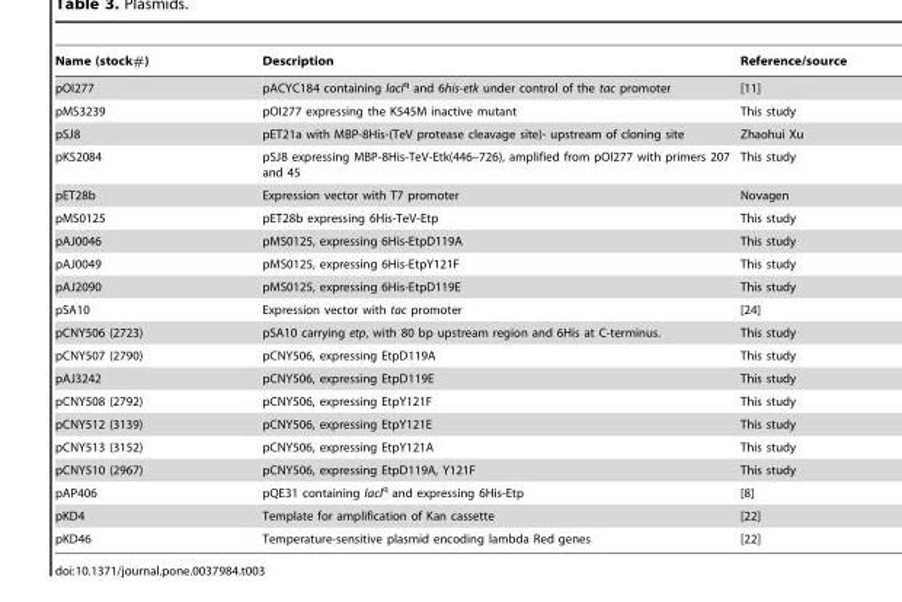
<table><thead><tr><td>Name (stock#)</td><td>Description</td><td>Reference/source</td></tr></thead><tbody><tr><td>pOI277</td><td>pACYC184 containing lacI<sup>q</sup> and 6his-etk under control of the tac promoter</td><td>[11]</td></tr><tr><td>pMS3239</td><td>pOI277 expressing the K545M inactive mutant</td><td>This study</td></tr><tr><td>pSJ8</td><td>pET21a with MBP-8His-(TeV protease cleavage site)- upstream of cloning site</td><td>Zhaohui Xu</td></tr><tr><td>pKS2084</td><td>pSJ8 expressing MBP-8His-TeV-Etk(446–726), amplified from pOI277 with primers 207 and 45</td><td>This study</td></tr><tr><td>pET28b</td><td>Expression vector with T7 promoter</td><td>Novagen</td></tr><tr><td>pMS0125</td><td>pET28b expressing 6His-TeV-Etp</td><td>This study</td></tr><tr><td>pAJ0046</td><td>pMS0125, expressing 6His-EtpD119A</td><td>This study</td></tr><tr><td>pAJ0049</td><td>pMS0125, expressing 6His-EtpY121F</td><td>This study</td></tr><tr><td>pAJ2090</td><td>pMS0125, expressing 6His-EtpD119E</td><td>This study</td></tr><tr><td>pSA10</td><td>Expression vector with tac promoter</td><td>[24]</td></tr><tr><td>pCNY506 (2723)</td><td>pSA10 carrying etp, with 80 bp upstream region and 6His at C-terminus.</td><td>This study</td></tr><tr><td>pCNY507 (2790)</td><td>pCNY506, expressing EtpD119A</td><td>This study</td></tr><tr><td>pAJ3242</td><td>pCNY506, expressing EtpD119E</td><td>This study</td></tr><tr><td>pCNY508 (2792)</td><td>pCNY506, expressing EtpY121F</td><td>This study</td></tr><tr><td>pCNY512 (3139)</td><td>pCNY506, expressing EtpY121E</td><td>This study</td></tr><tr><td>pCNY513 (3152)</td><td>pCNY506, expressing EtpY121A</td><td>This study</td></tr><tr><td>pCNY510 (2967)</td><td>pCNY506, expressing EtpD119A, Y121F</td><td>This study</td></tr><tr><td>pAP406</td><td>pQE31 containing lacI<sup>q</sup> and expressing 6His-Etp</td><td>[8]</td></tr><tr><td>pKD4</td><td>Template for amplification of Kan cassette</td><td>[22]</td></tr><tr><td>pKD46</td><td>Temperature-sensitive plasmid encoding lambda Red genes</td><td>[22]</td></tr></tbody></table>